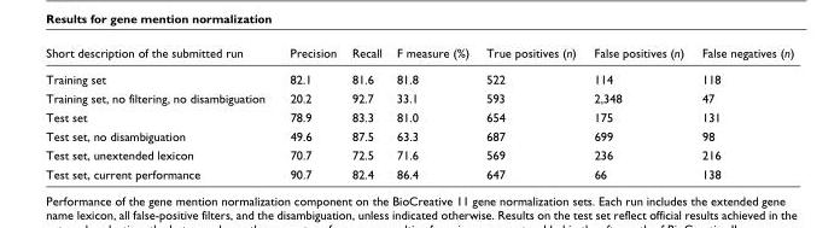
<table><thead><tr><td>Short description of the submitted run</td><td>Precision</td><td>Recall</td><td>F measure (%)</td><td>True positives (n)</td><td>False positives (n)</td><td>False negatives (n)</td></tr></thead><tbody><tr><td>Training set</td><td>82.1</td><td>81.6</td><td>81.8</td><td>522</td><td>114</td><td>118</td></tr><tr><td>Training set, no filtering, no disambiguation</td><td>20.2</td><td>92.7</td><td>33.1</td><td>593</td><td>2,348</td><td>47</td></tr><tr><td>Test set</td><td>78.9</td><td>83.3</td><td>81.0</td><td>654</td><td>175</td><td>131</td></tr><tr><td>Test set, no disambiguation</td><td>49.6</td><td>87.5</td><td>63.3</td><td>687</td><td>699</td><td>98</td></tr><tr><td>Test set, unextended lexicon</td><td>70.7</td><td>72.5</td><td>71.6</td><td>569</td><td>236</td><td>216</td></tr><tr><td>Test set, current performance</td><td>90.7</td><td>82.4</td><td>86.4</td><td>647</td><td>66</td><td>138</td></tr></tbody></table>